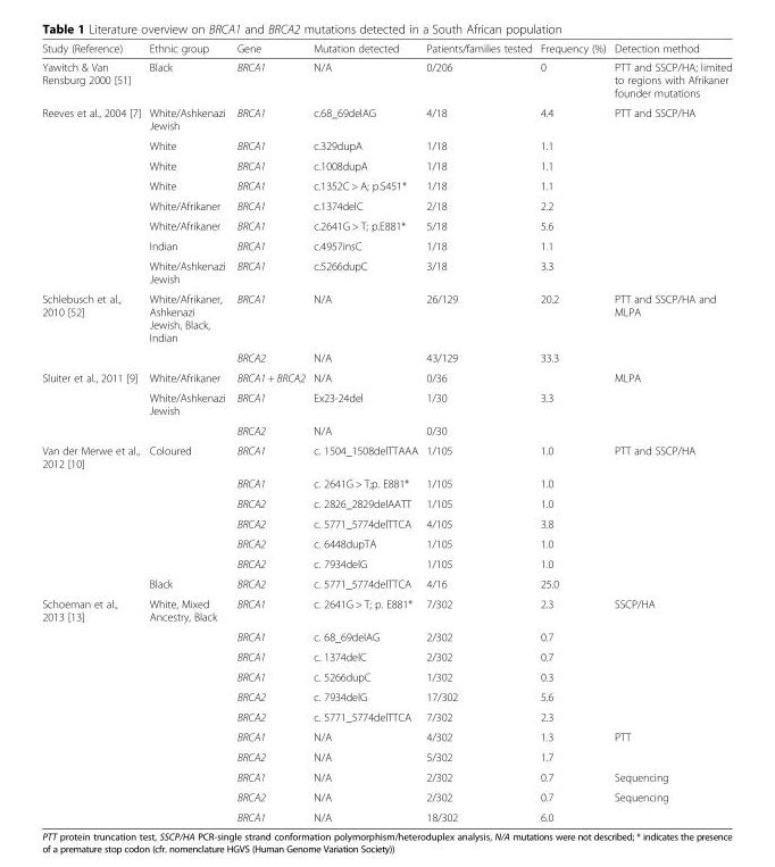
<table><thead><tr><td>Study (Reference)</td><td>Ethnic group</td><td>Gene</td><td>Mutation detected</td><td>Patients/families tested</td><td>Frequency (%)</td><td>Detection method</td></tr></thead><tbody><tr><td>Yawitch &amp; Van Rensburg 2000 [51]</td><td>Black</td><td>BRCA1</td><td>N/A</td><td>0/206</td><td>0</td><td>PTT and SSCP/HA; limited to regions with Afrikaner founder mutations</td></tr><tr><td rowspan="8">Reeves et al., 2004 [7]</td><td>White/Ashkenazi Jewish</td><td>BRCA1</td><td>c.68_69delAG</td><td>4/18</td><td>4.4</td><td>PTT and SSCP/HA</td></tr><tr><td>White</td><td>BRCA1</td><td>c.329dupA</td><td>1/18</td><td>1.1</td><td></td></tr><tr><td>White</td><td>BRCA1</td><td>c.1008dupA</td><td>1/18</td><td>1.1</td><td></td></tr><tr><td>White</td><td>BRCA1</td><td>c.1352C &gt; A; p.S451*</td><td>1/18</td><td>1.1</td><td></td></tr><tr><td>White/Afrikaner</td><td>BRCA1</td><td>c.1374delC</td><td>2/18</td><td>2.2</td><td></td></tr><tr><td>White/Afrikaner</td><td>BRCA1</td><td>c.2641G &gt; T; p.E881*</td><td>5/18</td><td>5.6</td><td></td></tr><tr><td>Indian</td><td>BRCA1</td><td>c.4957insC</td><td>1/18</td><td>1.1</td><td></td></tr><tr><td>White/Ashkenazi Jewish</td><td>BRCA1</td><td>c.5266dupC</td><td>3/18</td><td>3.3</td><td></td></tr><tr><td rowspan="2">Schlebusch et al., 2010 [52]</td><td>White/Afrikaner, Ashkenazi Jewish, Black, Indian</td><td>BRCA1</td><td>N/A</td><td>26/129</td><td>20.2</td><td>PTT and SSCP/HA and MLPA</td></tr><tr><td></td><td>BRCA2</td><td>N/A</td><td>43/129</td><td>33.3</td><td></td></tr><tr><td rowspan="3">Sluiter et al., 2011 [9]</td><td>White/Afrikaner</td><td>BRCA1 + BRCA2</td><td>N/A</td><td>0/36</td><td></td><td>MLPA</td></tr><tr><td>White/Ashkenazi Jewish</td><td>BRCA1</td><td>Ex23-24del</td><td>1/30</td><td>3.3</td><td></td></tr><tr><td></td><td>BRCA2</td><td>N/A</td><td>0/30</td><td></td><td></td></tr><tr><td rowspan="7">Van der Merwe et al., 2012 [10]</td><td>Coloured</td><td>BRCA1</td><td>c. 1504_1508delTTAAA</td><td>1/105</td><td>1.0</td><td>PTT and SSCP/HA</td></tr><tr><td></td><td>BRCA1</td><td>c. 2641G &gt; T;p. E881*</td><td>1/105</td><td>1.0</td><td></td></tr><tr><td></td><td>BRCA2</td><td>c. 2826_2829delAATT</td><td>1/105</td><td>1.0</td><td></td></tr><tr><td></td><td>BRCA2</td><td>c. 5771_5774delTTCA</td><td>4/105</td><td>3.8</td><td></td></tr><tr><td></td><td>BRCA2</td><td>c. 6448dupTA</td><td>1/105</td><td>1.0</td><td></td></tr><tr><td></td><td>BRCA2</td><td>c. 7934delG</td><td>1/105</td><td>1.0</td><td></td></tr><tr><td>Black</td><td>BRCA2</td><td>c. 5771_5774delTTCA</td><td>4/16</td><td>25.0</td><td></td></tr><tr><td rowspan="11">Schoeman et al., 2013 [13]</td><td>White, Mixed Ancestry, Black</td><td>BRCA1</td><td>c. 2641G &gt; T; p. E881*</td><td>7/302</td><td>2.3</td><td>SSCP/HA</td></tr><tr><td></td><td>BRCA1</td><td>c. 68_69delAG</td><td>2/302</td><td>0.7</td><td></td></tr><tr><td></td><td>BRCA1</td><td>c. 1374delC</td><td>2/302</td><td>0.7</td><td></td></tr><tr><td></td><td>BRCA1</td><td>c. 5266dupC</td><td>1/302</td><td>0.3</td><td></td></tr><tr><td></td><td>BRCA2</td><td>c. 7934delG</td><td>17/302</td><td>5.6</td><td></td></tr><tr><td></td><td>BRCA2</td><td>c. 5771_5774delTTCA</td><td>7/302</td><td>2.3</td><td></td></tr><tr><td></td><td>BRCA1</td><td>N/A</td><td>4/302</td><td>1.3</td><td>PTT</td></tr><tr><td></td><td>BRCA2</td><td>N/A</td><td>5/302</td><td>1.7</td><td></td></tr><tr><td></td><td>BRCA1</td><td>N/A</td><td>2/302</td><td>0.7</td><td>Sequencing</td></tr><tr><td></td><td>BRCA2</td><td>N/A</td><td>2/302</td><td>0.7</td><td>Sequencing</td></tr><tr><td></td><td>BRCA1</td><td>N/A</td><td>18/302</td><td>6.0</td><td></td></tr></tbody></table>